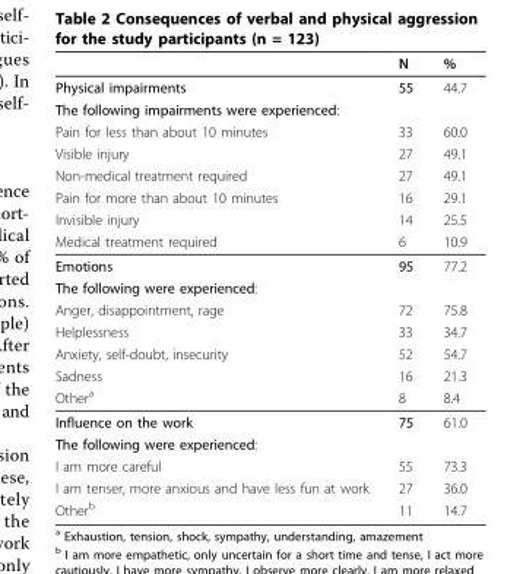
<table><thead><tr><td></td><td>N</td><td>%</td></tr></thead><tbody><tr><td>Physical impairments</td><td>55</td><td>44.7</td></tr><tr><td colspan="3">The following impairments were experienced:</td></tr><tr><td>Pain for less than about 10 minutes</td><td>33</td><td>60.0</td></tr><tr><td>Visible injury</td><td>27</td><td>49.1</td></tr><tr><td>Non-medical treatment required</td><td>27</td><td>49.1</td></tr><tr><td>Pain for more than about 10 minutes</td><td>16</td><td>29.1</td></tr><tr><td>Invisible injury</td><td>14</td><td>25.5</td></tr><tr><td>Medical treatment required</td><td>6</td><td>10.9</td></tr><tr><td>Emotions</td><td>95</td><td>77.2</td></tr><tr><td colspan="3">The following were experienced:</td></tr><tr><td>Anger, disappointment, rage</td><td>72</td><td>75.8</td></tr><tr><td>Helplessness</td><td>33</td><td>34.7</td></tr><tr><td>Anxiety, self-doubt, insecurity</td><td>52</td><td>54.7</td></tr><tr><td>Sadness</td><td>16</td><td>21.3</td></tr><tr><td>Other<sup>a</sup></td><td>8</td><td>8.4</td></tr><tr><td>Influence on the work</td><td>75</td><td>61.0</td></tr><tr><td colspan="3">The following were experienced:</td></tr><tr><td>I am more careful</td><td>55</td><td>73.3</td></tr><tr><td>I am tenser, more anxious and have less fun at work</td><td>27</td><td>36.0</td></tr><tr><td>Other<sup>b</sup></td><td>11</td><td>14.7</td></tr></tbody></table>